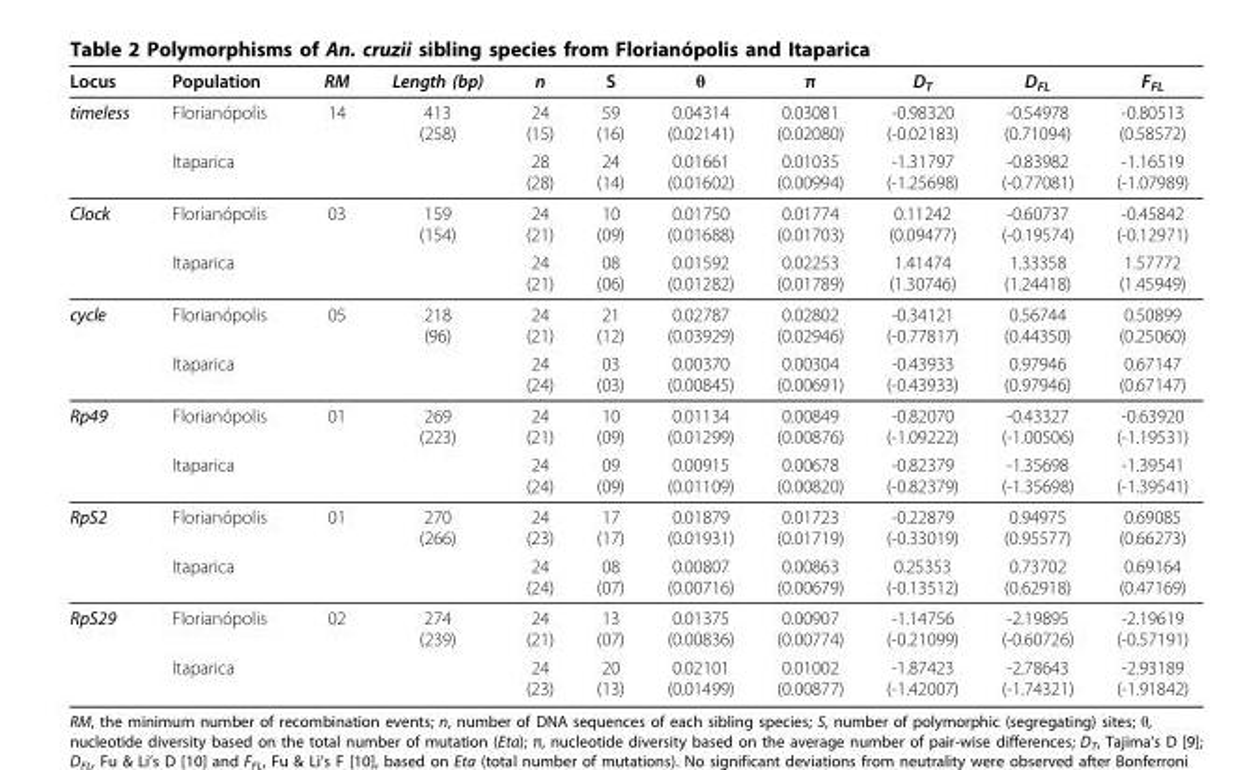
<table><thead><tr><td>Locus</td><td>Population</td><td>RM</td><td>Length (bp)</td><td>n</td><td>S</td><td>θ</td><td>π</td><td>D<sub>T</sub></td><td>D<sub>FL</sub></td><td>F<sub>FL</sub></td></tr></thead><tbody><tr><td rowspan="2">timeless</td><td>Florianópolis</td><td>14</td><td>413 (258)</td><td>24 (15)</td><td>59 (16)</td><td>0.04314 (0.02141)</td><td>0.03081 (0.02080)</td><td>-0.98320 (-0.02183)</td><td>-0.54978 (0.71094)</td><td>-0.80513 (0.58572)</td></tr><tr><td>Itaparica</td><td></td><td></td><td>28 (28)</td><td>24 (14)</td><td>0.01661 (0.01602)</td><td>0.01035 (0.00994)</td><td>-1.31797 (-1.25698)</td><td>-0.83982 (-0.77081)</td><td>-1.16519 (-1.07989)</td></tr><tr><td rowspan="2">Clock</td><td>Florianópolis</td><td>03</td><td>159 (154)</td><td>24 (21)</td><td>10 (09)</td><td>0.01750 (0.01688)</td><td>0.01774 (0.01703)</td><td>0.11242 (0.09477)</td><td>-0.60737 (-0.19574)</td><td>-0.45842 (-0.12971)</td></tr><tr><td>Itaparica</td><td></td><td></td><td>24 (21)</td><td>08 (06)</td><td>0.01592 (0.01282)</td><td>0.02253 (0.01789)</td><td>1.41474 (1.30746)</td><td>1.33358 (1.24418)</td><td>1.57772 (1.45949)</td></tr><tr><td rowspan="2">cycle</td><td>Florianópolis</td><td>05</td><td>218 (96)</td><td>24 (21)</td><td>21 (12)</td><td>0.02787 (0.03929)</td><td>0.02802 (0.02946)</td><td>-0.34121 (-0.77817)</td><td>0.56744 (0.44350)</td><td>0.50899 (0.25060)</td></tr><tr><td>Itaparica</td><td></td><td></td><td>24 (24)</td><td>03 (03)</td><td>0.00370 (0.00845)</td><td>0.00304 (0.00691)</td><td>-0.43933 (-0.43933)</td><td>0.97946 (0.97946)</td><td>0.67147 (0.67147)</td></tr><tr><td rowspan="2">Rp49</td><td>Florianópolis</td><td>01</td><td>269 (223)</td><td>24 (21)</td><td>10 (09)</td><td>0.01134 (0.01299)</td><td>0.00849 (0.00876)</td><td>-0.82070 (-1.09222)</td><td>-0.43327 (-1.00506)</td><td>-0.63920 (-1.19531)</td></tr><tr><td>Itaparica</td><td></td><td></td><td>24 (24)</td><td>09 (09)</td><td>0.00915 (0.01109)</td><td>0.00678 (0.00820)</td><td>-0.82379 (-0.82379)</td><td>-1.35698 (-1.35698)</td><td>-1.39541 (-1.39541)</td></tr><tr><td rowspan="2">RpS2</td><td>Florianópolis</td><td>01</td><td>270 (266)</td><td>24 (23)</td><td>17 (17)</td><td>0.01879 (0.01931)</td><td>0.01723 (0.01719)</td><td>-0.22879 (-0.33019)</td><td>0.94975 (0.95577)</td><td>0.69085 (0.66273)</td></tr><tr><td>Itaparica</td><td></td><td></td><td>24 (24)</td><td>08 (07)</td><td>0.00807 (0.00716)</td><td>0.00863 (0.00679)</td><td>0.25353 (-0.13512)</td><td>0.73702 (0.62918)</td><td>0.69164 (0.47169)</td></tr><tr><td rowspan="2">RpS29</td><td>Florianópolis</td><td>02</td><td>274 (239)</td><td>24 (21)</td><td>13 (07)</td><td>0.01375 (0.00836)</td><td>0.00907 (0.00774)</td><td>-1.14756 (-0.21099)</td><td>-2.19895 (-0.60726)</td><td>-2.19619 (-0.57191)</td></tr><tr><td>Itaparica</td><td></td><td></td><td>24 (23)</td><td>20 (13)</td><td>0.02101 (0.01499)</td><td>0.01002 (0.00877)</td><td>-1.87423 (-1.42007)</td><td>-2.78643 (-1.74321)</td><td>-2.93189 (-1.91842)</td></tr></tbody></table>